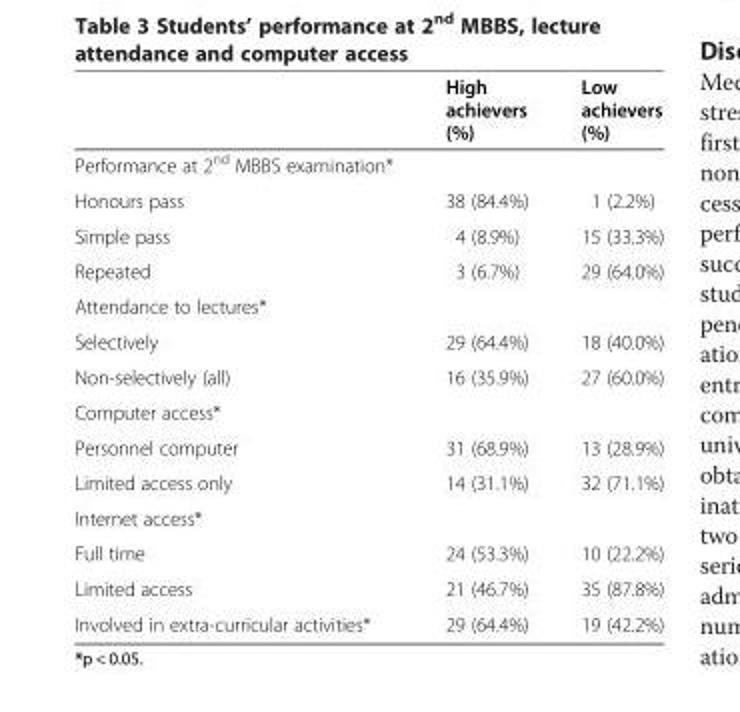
<table><thead><tr><td></td><td>High achievers (%)</td><td>Low achievers (%)</td></tr></thead><tbody><tr><td colspan="3">Performance at 2<sup>nd</sup> MBBS examination*</td></tr><tr><td>Honours pass</td><td>38 (84.4%)</td><td>1 (2.2%)</td></tr><tr><td>Simple pass</td><td>4 (8.9%)</td><td>15 (33.3%)</td></tr><tr><td>Repeated</td><td>3 (6.7%)</td><td>29 (64.0%)</td></tr><tr><td colspan="3">Attendance to lectures*</td></tr><tr><td>Selectively</td><td>29 (64.4%)</td><td>18 (40.0%)</td></tr><tr><td>Non-selectively (all)</td><td>16 (35.9%)</td><td>27 (60.0%)</td></tr><tr><td colspan="3">Computer access*</td></tr><tr><td>Personnel computer</td><td>31 (68.9%)</td><td>13 (28.9%)</td></tr><tr><td>Limited access only</td><td>14 (31.1%)</td><td>32 (71.1%)</td></tr><tr><td colspan="3">Internet access*</td></tr><tr><td>Full time</td><td>24 (53.3%)</td><td>10 (22.2%)</td></tr><tr><td>Limited access</td><td>21 (46.7%)</td><td>35 (87.8%)</td></tr><tr><td>Involved in extra-curricular activities*</td><td>29 (64.4%)</td><td>19 (42.2%)</td></tr></tbody></table>